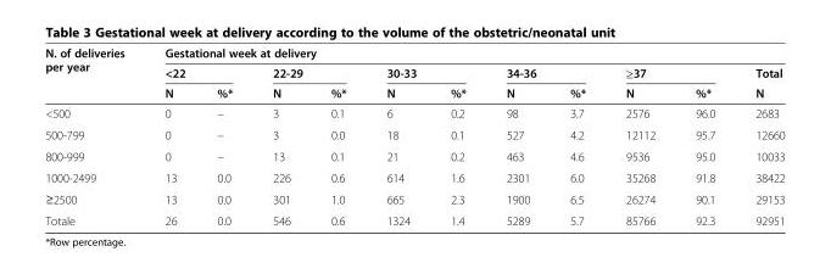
<table><thead><tr><td rowspan="3">N. of deliveries per year</td><td colspan="11">Gestational week at delivery</td></tr><tr><td colspan="2">&lt;22</td><td colspan="2">22-29</td><td colspan="2">30-33</td><td colspan="2">34-36</td><td colspan="2">≥37</td><td rowspan="2">Total N</td></tr><tr><td>N</td><td>%*</td><td>N</td><td>%*</td><td>N</td><td>%*</td><td>N</td><td>%*</td><td>N</td><td>%*</td></tr></thead><tbody><tr><td>&lt;500</td><td>0</td><td>–</td><td>3</td><td>0.1</td><td>6</td><td>0.2</td><td>98</td><td>3.7</td><td>2576</td><td>96.0</td><td>2683</td></tr><tr><td>500-799</td><td>0</td><td>–</td><td>3</td><td>0.0</td><td>18</td><td>0.1</td><td>527</td><td>4.2</td><td>12112</td><td>95.7</td><td>12660</td></tr><tr><td>800-999</td><td>0</td><td>–</td><td>13</td><td>0.1</td><td>21</td><td>0.2</td><td>463</td><td>4.6</td><td>9536</td><td>95.0</td><td>10033</td></tr><tr><td>1000-2499</td><td>13</td><td>0.0</td><td>226</td><td>0.6</td><td>614</td><td>1.6</td><td>2301</td><td>6.0</td><td>35268</td><td>91.8</td><td>38422</td></tr><tr><td>≥2500</td><td>13</td><td>0.0</td><td>301</td><td>1.0</td><td>665</td><td>2.3</td><td>1900</td><td>6.5</td><td>26274</td><td>90.1</td><td>29153</td></tr><tr><td>Totale</td><td>26</td><td>0.0</td><td>546</td><td>0.6</td><td>1324</td><td>1.4</td><td>5289</td><td>5.7</td><td>85766</td><td>92.3</td><td>92951</td></tr></tbody></table>